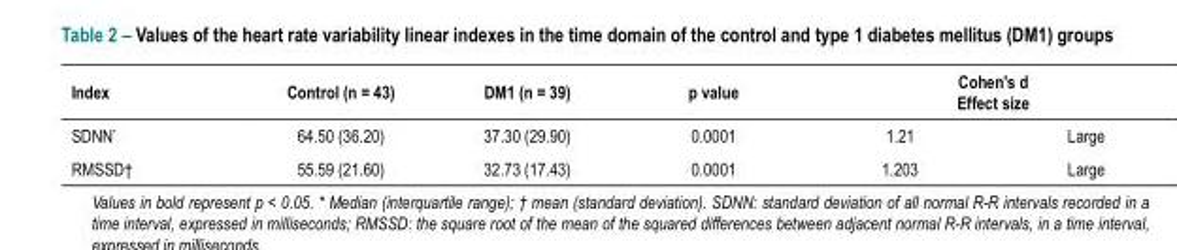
<table><thead><tr><td rowspan="2">Index SDNN*</td><td rowspan="2">Control (n = 43) 64.50 (36.20)</td><td rowspan="2">DM1 (n = 39) 37.30 (29.90)</td><td rowspan="2">p value 0.0001</td><td colspan="2">Cohen&#x27;s d Effect size</td></tr><tr><td>1.21</td><td>Large</td></tr></thead><tbody><tr><td>RMSSD†</td><td>55.59 (21.60)</td><td>32.73 (17.43)</td><td>0.0001</td><td>1.203</td><td>Large</td></tr></tbody></table>